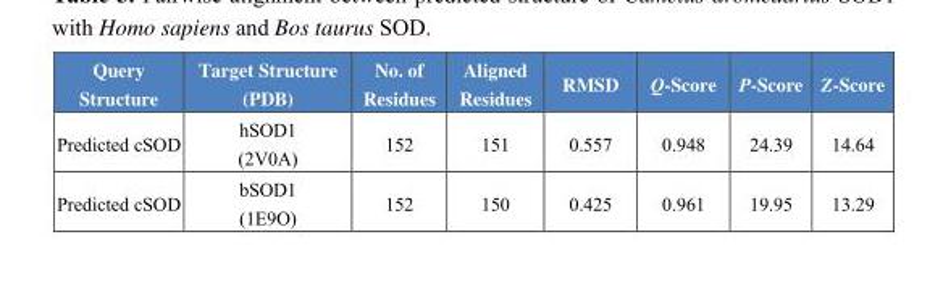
<table><thead><tr><td>Query Structure</td><td>Target Structure (PDB)</td><td>No. of Residues</td><td>Aligned Residues</td><td>RMSD</td><td>Q-Score</td><td>P-Score</td><td>Z-Score</td></tr></thead><tbody><tr><td>Predicted cSOD</td><td>hSOD1 (2V0A)</td><td>152</td><td>151</td><td>0.557</td><td>0.948</td><td>24.39</td><td>14.64</td></tr><tr><td>Predicted cSOD</td><td>bSOD1 (1E9O)</td><td>152</td><td>150</td><td>0.425</td><td>0.961</td><td>19.95</td><td>13.29</td></tr></tbody></table>